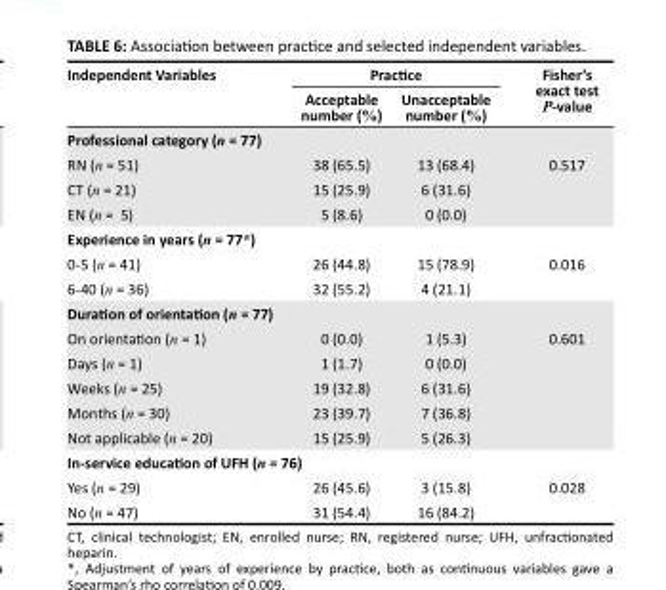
<table><thead><tr><td rowspan="2">Independent Variables</td><td colspan="2">Practice</td><td rowspan="2">Fisher’s exact test P-value</td></tr><tr><td>Acceptable number (%)</td><td>Unacceptable number (%)</td></tr></thead><tbody><tr><td colspan="4">Professional category (n = 77)</td></tr><tr><td>RN (n = 51)</td><td>38 (65.5)</td><td>13 (68.4)</td><td>0.517</td></tr><tr><td>CT (n = 21)</td><td>15 (25.9)</td><td>6 (31.6)</td><td></td></tr><tr><td>EN (n = 5)</td><td>5 (8.6)</td><td>0 (0.0)</td><td></td></tr><tr><td colspan="4">Experience in years (n = 77*)</td></tr><tr><td>0-5 (n = 41)</td><td>26 (44.8)</td><td>15 (78.9)</td><td>0.016</td></tr><tr><td>6-40 (n = 36)</td><td>32 (55.2)</td><td>4 (21.1)</td><td></td></tr><tr><td colspan="4">Duration of orientation (n = 77)</td></tr><tr><td>On orientation (n = 1)</td><td>0 (0.0)</td><td>1 (5.3)</td><td>0.601</td></tr><tr><td>Days (n = 1)</td><td>1 (1.7)</td><td>0 (0.0)</td><td></td></tr><tr><td>Weeks (n = 25)</td><td>19 (32.8)</td><td>6 (31.6)</td><td></td></tr><tr><td>Months (n = 30)</td><td>23 (39.7)</td><td>7 (36.8)</td><td></td></tr><tr><td>Not applicable (n = 20)</td><td>15 (25.9)</td><td>5 (26.3)</td><td></td></tr><tr><td colspan="4">In-service education of UFH (n = 76)</td></tr><tr><td>Yes (n = 29)</td><td>26 (45.6)</td><td>3 (15.8)</td><td>0.028</td></tr><tr><td>No (n = 47)</td><td>31 (54.4)</td><td>16 (84.2)</td><td></td></tr></tbody></table>